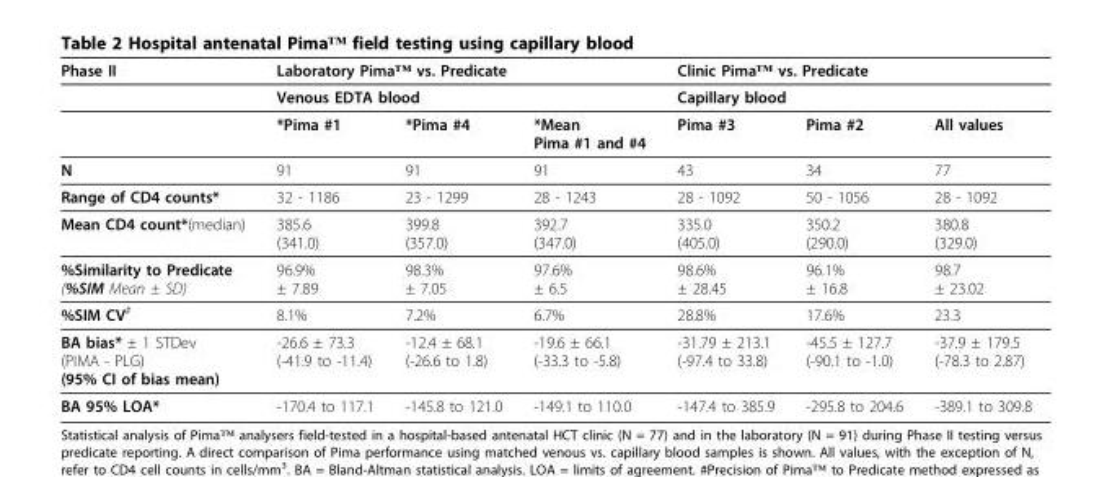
<table><thead><tr><td rowspan="3">Phase II</td><td rowspan="2" colspan="3">Laboratory Pima™ vs. Predicate Venous EDTA blood</td><td rowspan="2" colspan="3">Clinic Pima™ vs. Predicate Capillary blood</td></tr><tr></tr><tr><td>*Pima #1</td><td>*Pima #4</td><td>*Mean Pima #1 and #4</td><td>Pima #3</td><td>Pima #2</td><td>All values</td></tr></thead><tbody><tr><td>N</td><td>91</td><td>91</td><td>91</td><td>43</td><td>34</td><td>77</td></tr><tr><td>Range of CD4 counts*</td><td>32 - 1186</td><td>23 - 1299</td><td>28 - 1243</td><td>28 - 1092</td><td>50 - 1056</td><td>28 - 1092</td></tr><tr><td>Mean CD4 count*(median)</td><td>385.6 (341.0)</td><td>399.8 (357.0)</td><td>392.7 (347.0)</td><td>335.0 (405.0)</td><td>350.2 (290.0)</td><td>380.8 (329.0)</td></tr><tr><td>%Similarity to Predicate (%SIM Mean ± SD)</td><td>96.9% ± 7.89</td><td>98.3% ± 7.05</td><td>97.6% ± 6.5</td><td>98.6% ± 28.45</td><td>96.1% ± 16.8</td><td>98.7 ± 23.02</td></tr><tr><td>%SIM CV<sup>#</sup></td><td>8.1%</td><td>7.2%</td><td>6.7%</td><td>28.8%</td><td>17.6%</td><td>23.3</td></tr><tr><td>BA bias* ± 1 STDev (PIMA - PLG) (95% CI of bias mean)</td><td>-26.6 ± 73.3 (-41.9 to -11.4)</td><td>-12.4 ± 68.1 (-26.6 to 1.8)</td><td>-19.6 ± 66.1 (-33.3 to -5.8)</td><td>-31.79 ± 213.1 (-97.4 to 33.8)</td><td>-45.5 ± 127.7 (-90.1 to -1.0)</td><td>-37.9 ± 179.5 (-78.3 to 2.87)</td></tr><tr><td>BA 95% LOA*</td><td>-170.4 to 117.1</td><td>-145.8 to 121.0</td><td>-149.1 to 110.0</td><td>-147.4 to 385.9</td><td>-295.8 to 204.6</td><td>-389.1 to 309.8</td></tr></tbody></table>